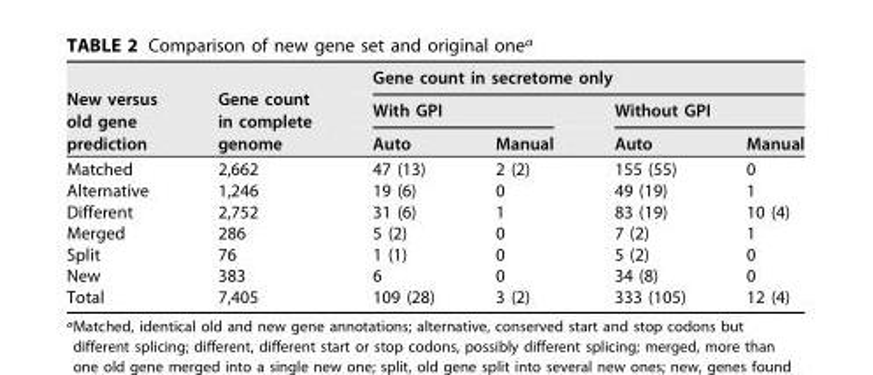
<table><thead><tr><td rowspan="3">New versus old gene prediction</td><td rowspan="3">Gene count in complete genome</td><td colspan="4">Gene count in secretome only</td></tr><tr><td colspan="2">With GPI</td><td colspan="2">Without GPI</td></tr><tr><td>Auto</td><td>Manual</td><td>Auto</td><td>Manual</td></tr></thead><tbody><tr><td>Matched</td><td>2,662</td><td>47 (13)</td><td>2 (2)</td><td>155 (55)</td><td>0</td></tr><tr><td>Alternative</td><td>1,246</td><td>19 (6)</td><td>0</td><td>49 (19)</td><td>1</td></tr><tr><td>Different</td><td>2,752</td><td>31 (6)</td><td>1</td><td>83 (19)</td><td>10 (4)</td></tr><tr><td>Merged</td><td>286</td><td>5 (2)</td><td>0</td><td>7 (2)</td><td>1</td></tr><tr><td>Split</td><td>76</td><td>1 (1)</td><td>0</td><td>5 (2)</td><td>0</td></tr><tr><td>New</td><td>383</td><td>6</td><td>0</td><td>34 (8)</td><td>0</td></tr><tr><td>Total</td><td>7,405</td><td>109 (28)</td><td>3 (2)</td><td>333 (105)</td><td>12 (4)</td></tr></tbody></table>